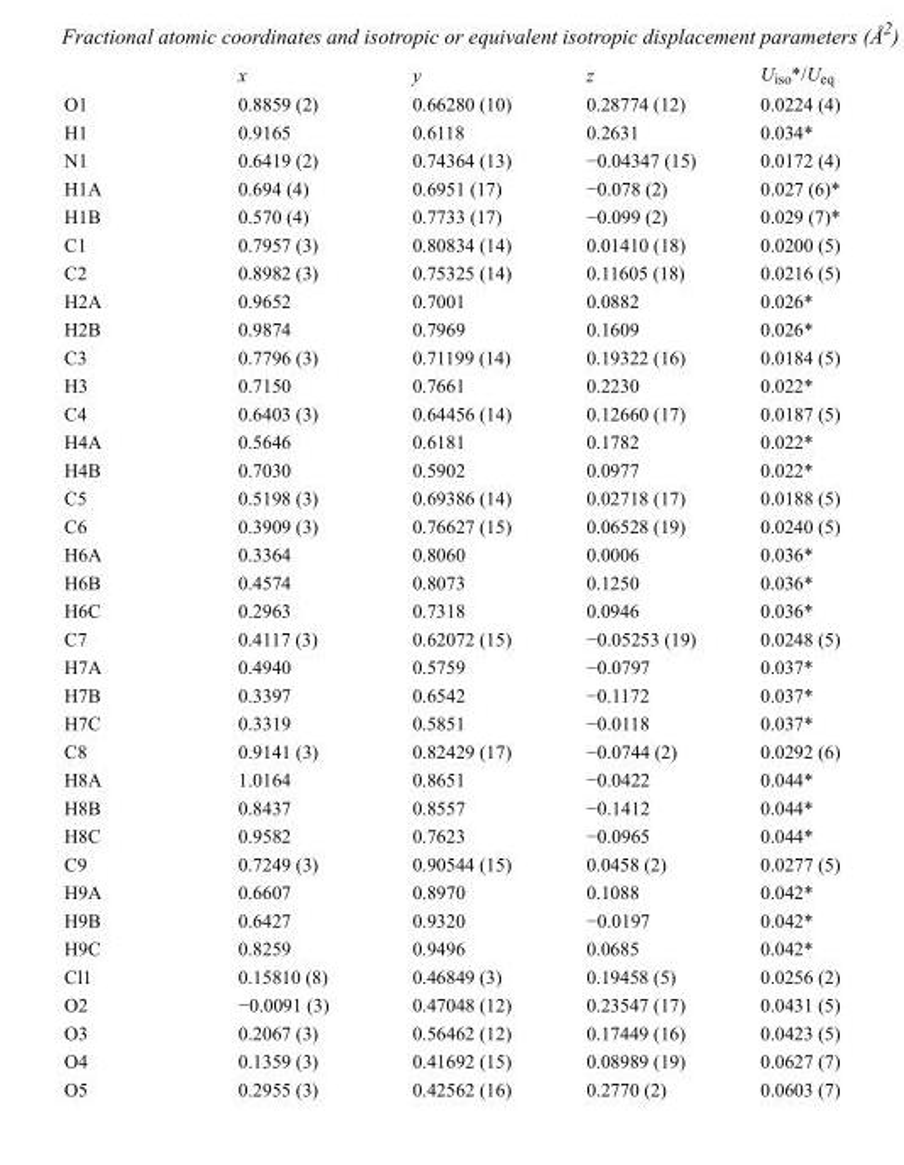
<table><thead><tr><td></td><td>x</td><td>y</td><td>z</td><td>U<sub>iso</sub>*/U<sub>eq</sub></td></tr></thead><tbody><tr><td>O1</td><td>0.8859 (2)</td><td>0.66280 (10)</td><td>0.28774 (12)</td><td>0.0224 (4)</td></tr><tr><td>H1</td><td>0.9165</td><td>0.6118</td><td>0.2631</td><td>0.034*</td></tr><tr><td>N1</td><td>0.6419 (2)</td><td>0.74364 (13)</td><td>−0.04347 (15)</td><td>0.0172 (4)</td></tr><tr><td>H1A</td><td>0.694 (4)</td><td>0.6951 (17)</td><td>−0.078 (2)</td><td>0.027 (6)*</td></tr><tr><td>H1B</td><td>0.570 (4)</td><td>0.7733 (17)</td><td>−0.099 (2)</td><td>0.029 (7)*</td></tr><tr><td>C1</td><td>0.7957 (3)</td><td>0.80834 (14)</td><td>0.01410 (18)</td><td>0.0200 (5)</td></tr><tr><td>C2</td><td>0.8982 (3)</td><td>0.75325 (14)</td><td>0.11605 (18)</td><td>0.0216 (5)</td></tr><tr><td>H2A</td><td>0.9652</td><td>0.7001</td><td>0.0882</td><td>0.026*</td></tr><tr><td>H2B</td><td>0.9874</td><td>0.7969</td><td>0.1609</td><td>0.026*</td></tr><tr><td>C3</td><td>0.7796 (3)</td><td>0.71199 (14)</td><td>0.19322 (16)</td><td>0.0184 (5)</td></tr><tr><td>H3</td><td>0.7150</td><td>0.7661</td><td>0.2230</td><td>0.022*</td></tr><tr><td>C4</td><td>0.6403 (3)</td><td>0.64456 (14)</td><td>0.12660 (17)</td><td>0.0187 (5)</td></tr><tr><td>H4A</td><td>0.5646</td><td>0.6181</td><td>0.1782</td><td>0.022*</td></tr><tr><td>H4B</td><td>0.7030</td><td>0.5902</td><td>0.0977</td><td>0.022*</td></tr><tr><td>C5</td><td>0.5198 (3)</td><td>0.69386 (14)</td><td>0.02718 (17)</td><td>0.0188 (5)</td></tr><tr><td>C6</td><td>0.3909 (3)</td><td>0.76627 (15)</td><td>0.06528 (19)</td><td>0.0240 (5)</td></tr><tr><td>H6A</td><td>0.3364</td><td>0.8060</td><td>0.0006</td><td>0.036*</td></tr><tr><td>H6B</td><td>0.4574</td><td>0.8073</td><td>0.1250</td><td>0.036*</td></tr><tr><td>H6C</td><td>0.2963</td><td>0.7318</td><td>0.0946</td><td>0.036*</td></tr><tr><td>C7</td><td>0.4117 (3)</td><td>0.62072 (15)</td><td>−0.05253 (19)</td><td>0.0248 (5)</td></tr><tr><td>H7A</td><td>0.4940</td><td>0.5759</td><td>−0.0797</td><td>0.037*</td></tr><tr><td>H7B</td><td>0.3397</td><td>0.6542</td><td>−0.1172</td><td>0.037*</td></tr><tr><td>H7C</td><td>0.3319</td><td>0.5851</td><td>−0.0118</td><td>0.037*</td></tr><tr><td>C8</td><td>0.9141 (3)</td><td>0.82429 (17)</td><td>−0.0744 (2)</td><td>0.0292 (6)</td></tr><tr><td>H8A</td><td>1.0164</td><td>0.8651</td><td>−0.0422</td><td>0.044*</td></tr><tr><td>H8B</td><td>0.8437</td><td>0.8557</td><td>−0.1412</td><td>0.044*</td></tr><tr><td>H8C</td><td>0.9582</td><td>0.7623</td><td>−0.0965</td><td>0.044*</td></tr><tr><td>C9</td><td>0.7249 (3)</td><td>0.90544 (15)</td><td>0.0458 (2)</td><td>0.0277 (5)</td></tr><tr><td>H9A</td><td>0.6607</td><td>0.8970</td><td>0.1088</td><td>0.042*</td></tr><tr><td>H9B</td><td>0.6427</td><td>0.9320</td><td>−0.0197</td><td>0.042*</td></tr><tr><td>H9C</td><td>0.8259</td><td>0.9496</td><td>0.0685</td><td>0.042*</td></tr><tr><td>Cl1</td><td>0.15810 (8)</td><td>0.46849 (3)</td><td>0.19458 (5)</td><td>0.0256 (2)</td></tr><tr><td>O2</td><td>−0.0091 (3)</td><td>0.47048 (12)</td><td>0.23547 (17)</td><td>0.0431 (5)</td></tr><tr><td>O3</td><td>0.2067 (3)</td><td>0.56462 (12)</td><td>0.17449 (16)</td><td>0.0423 (5)</td></tr><tr><td>O4</td><td>0.1359 (3)</td><td>0.41692 (15)</td><td>0.08989 (19)</td><td>0.0627 (7)</td></tr><tr><td>O5</td><td>0.2955 (3)</td><td>0.42562 (16)</td><td>0.2770 (2)</td><td>0.0603 (7)</td></tr></tbody></table>